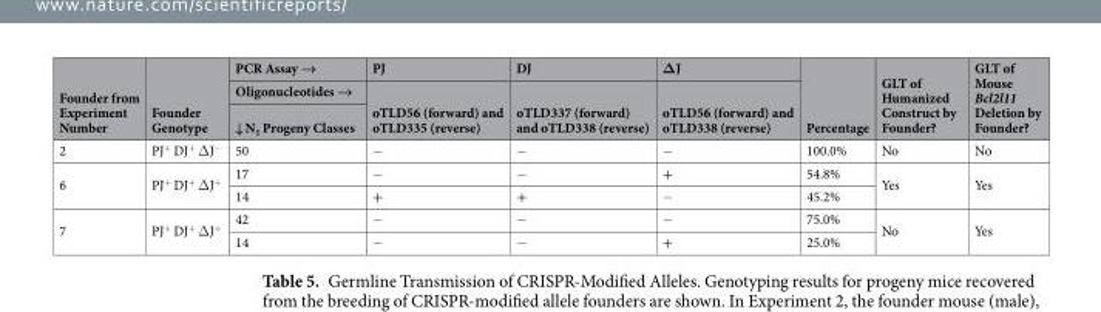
<table><thead><tr><td rowspan="3">Founder from Experiment Number</td><td rowspan="3">Founder Genotype</td><td rowspan="3">PCR Assay → Oligonucleotides → ↓ N<sub>1</sub> Progeny Classes</td><td rowspan="3">PJ oTLD56 (forward) and oTLD335 (reverse)</td><td rowspan="3">DJ oTLD337 (forward) and oTLD338 (reverse)</td><td rowspan="3">ΔJ oTLD56 (forward) and oTLD338 (reverse)</td><td rowspan="3">Percentage</td><td rowspan="3">GLT of Humanized Construct by Founder?</td><td rowspan="3">GLT of Mouse Bcl2l11 Deletion by Founder?</td></tr><tr></tr><tr></tr></thead><tbody><tr><td>2</td><td>PJ<sup>+</sup> DJ<sup>+</sup> ΔJ<sup>−</sup></td><td>50</td><td>−</td><td>−</td><td>−</td><td>100.0%</td><td>No</td><td>No</td></tr><tr><td rowspan="2">6</td><td rowspan="2">PJ<sup>+</sup> DJ<sup>+</sup> ΔJ<sup>+</sup></td><td>17</td><td>−</td><td>−</td><td>+</td><td>54.8%</td><td rowspan="2">Yes</td><td rowspan="2">Yes</td></tr><tr><td>14</td><td>+</td><td>+</td><td>−</td><td>45.2%</td></tr><tr><td rowspan="2">7</td><td rowspan="2">PJ<sup>+</sup> DJ<sup>+</sup> ΔJ<sup>+</sup></td><td>42</td><td>−</td><td>−</td><td>−</td><td>75.0%</td><td rowspan="2">No</td><td rowspan="2">Yes</td></tr><tr><td>14</td><td>−</td><td>−</td><td>+</td><td>25.0%</td></tr></tbody></table>